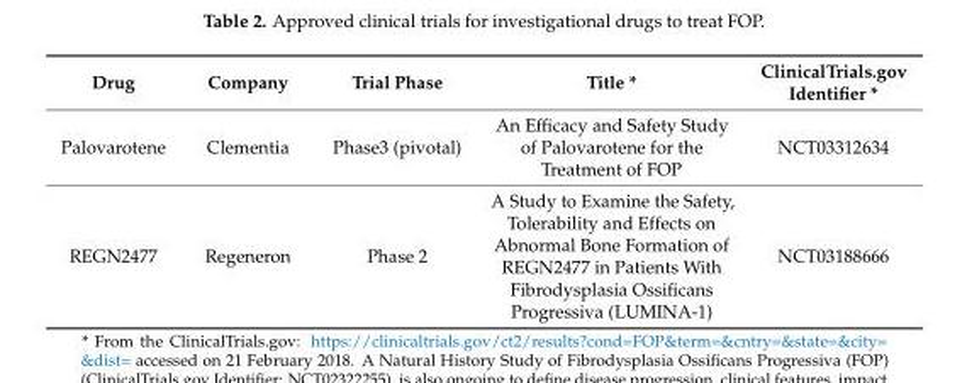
<table><thead><tr><td>Drug</td><td>Company</td><td>Trial Phase</td><td>Title *</td><td>ClinicalTrials.gov Identifier *</td></tr></thead><tbody><tr><td>Palovarotene</td><td>Clementia</td><td>Phase3 (pivotal)</td><td>An Efficacy and Safety Study of Palovarotene for the Treatment of FOP</td><td>NCT03312634</td></tr><tr><td>REGN2477</td><td>Regeneron</td><td>Phase 2</td><td>A Study to Examine the Safety, Tolerability and Effects on Abnormal Bone Formation of REGN2477 in Patients With Fibrodysplasia Ossificans Progressiva (LUMINA-1)</td><td>NCT03188666</td></tr></tbody></table>